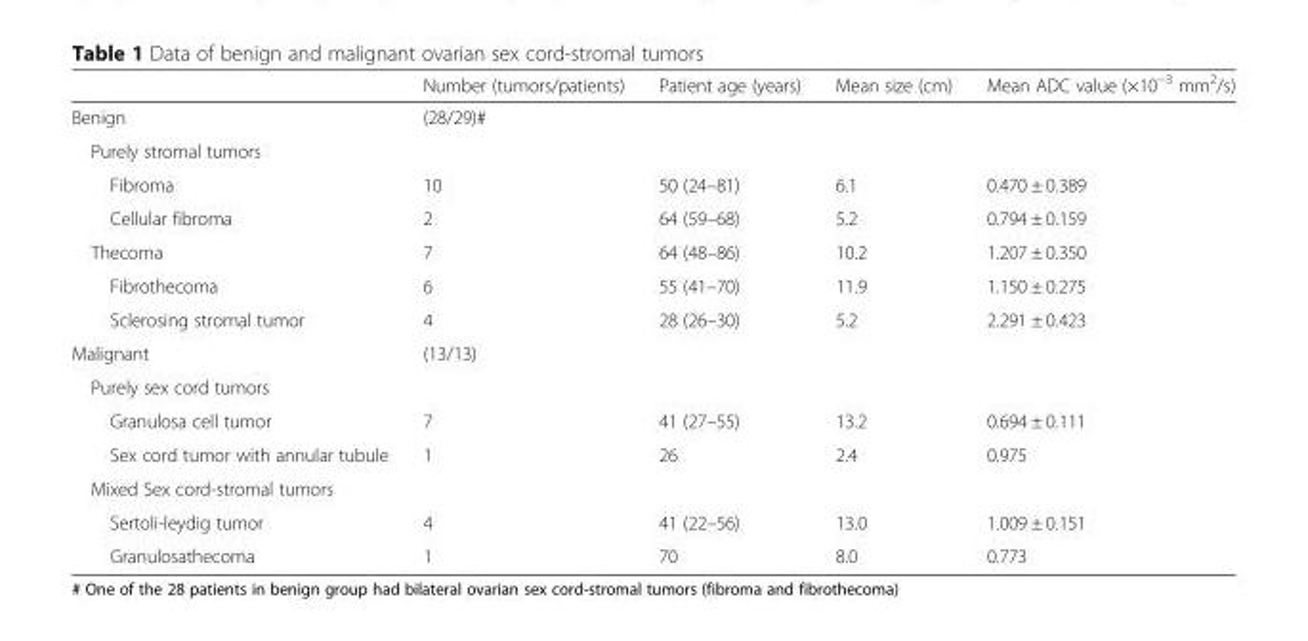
<table><thead><tr><td></td><td>Number (tumors/patients)</td><td>Patient age (years)</td><td>Mean size (cm)</td><td>Mean ADC value (×10<sup>−3</sup> mm<sup>2</sup>/s)</td></tr></thead><tbody><tr><td>Benign</td><td>(28/29)#</td><td></td><td></td><td></td></tr><tr><td colspan="5">Purely stromal tumors</td></tr><tr><td>Fibroma</td><td>10</td><td>50 (24–81)</td><td>6.1</td><td>0.470 ± 0.389</td></tr><tr><td>Cellular fibroma</td><td>2</td><td>64 (59–68)</td><td>5.2</td><td>0.794 ± 0.159</td></tr><tr><td>Thecoma</td><td>7</td><td>64 (48–86)</td><td>10.2</td><td>1.207 ± 0.350</td></tr><tr><td>Fibrothecoma</td><td>6</td><td>55 (41–70)</td><td>11.9</td><td>1.150 ± 0.275</td></tr><tr><td>Sclerosing stromal tumor</td><td>4</td><td>28 (26–30)</td><td>5.2</td><td>2.291 ± 0.423</td></tr><tr><td>Malignant</td><td>(13/13)</td><td></td><td></td><td></td></tr><tr><td colspan="5">Purely sex cord tumors</td></tr><tr><td>Granulosa cell tumor</td><td>7</td><td>41 (27–55)</td><td>13.2</td><td>0.694 ± 0.111</td></tr><tr><td>Sex cord tumor with annular tubule</td><td>1</td><td>26</td><td>2.4</td><td>0.975</td></tr><tr><td colspan="5">Mixed Sex cord-stromal tumors</td></tr><tr><td>Sertoli-leydig tumor</td><td>4</td><td>41 (22–56)</td><td>13.0</td><td>1.009 ± 0.151</td></tr><tr><td>Granulosathecoma</td><td>1</td><td>70</td><td>8.0</td><td>0.773</td></tr></tbody></table>